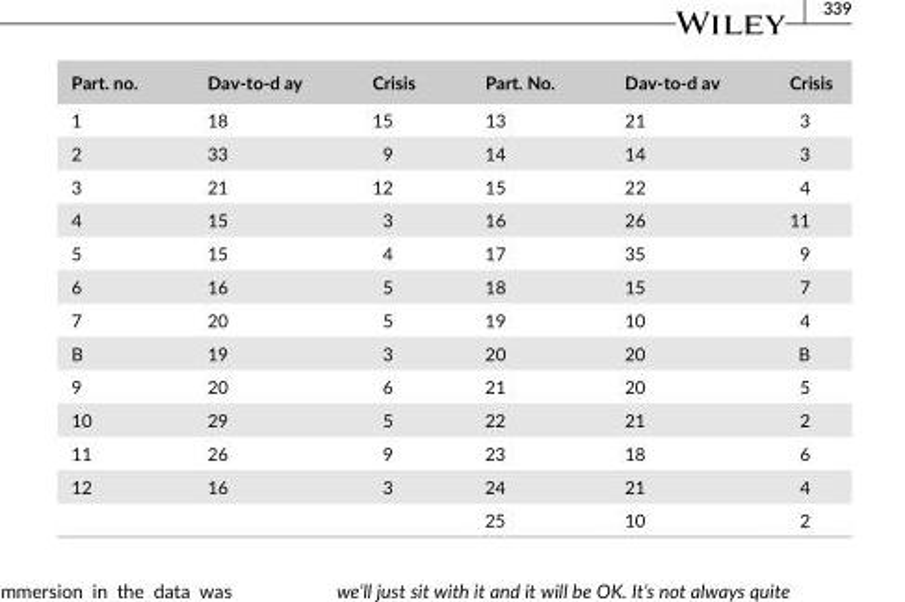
<table><thead><tr><td>Part. no.</td><td>Dav- to- d ay</td><td>Crisis</td><td>Part. No.</td><td>Dav- to- d av</td><td>Crisis</td></tr></thead><tbody><tr><td>1</td><td>18</td><td>15</td><td>13</td><td>21</td><td>3</td></tr><tr><td>2</td><td>33</td><td>9</td><td>14</td><td>14</td><td>3</td></tr><tr><td>3</td><td>21</td><td>12</td><td>15</td><td>22</td><td>4</td></tr><tr><td>4</td><td>15</td><td>3</td><td>16</td><td>26</td><td>11</td></tr><tr><td>5</td><td>15</td><td>4</td><td>17</td><td>35</td><td>9</td></tr><tr><td>6</td><td>16</td><td>5</td><td>18</td><td>15</td><td>7</td></tr><tr><td>7</td><td>20</td><td>5</td><td>19</td><td>10</td><td>4</td></tr><tr><td>B</td><td>19</td><td>3</td><td>20</td><td>20</td><td>B</td></tr><tr><td>9</td><td>20</td><td>6</td><td>21</td><td>20</td><td>5</td></tr><tr><td>10</td><td>29</td><td>5</td><td>22</td><td>21</td><td>2</td></tr><tr><td>11</td><td>26</td><td>9</td><td>23</td><td>18</td><td>6</td></tr><tr><td rowspan="2">12</td><td>16</td><td>3</td><td>24</td><td>21</td><td>4</td></tr><tr><td></td><td></td><td>25</td><td>10</td><td>2</td></tr></tbody></table>